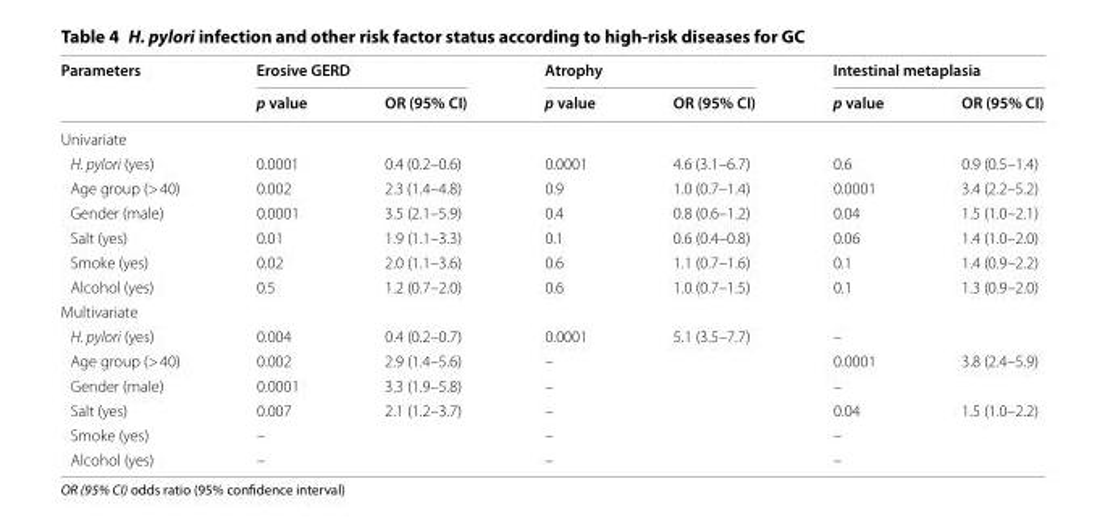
<table><thead><tr><td rowspan="2">Parameters</td><td colspan="2">Erosive GERD</td><td colspan="2">Atrophy</td><td colspan="2">Intestinal metaplasia</td></tr><tr><td>p value</td><td>OR (95% CI)</td><td>p value</td><td>OR (95% CI)</td><td>p value</td><td>OR (95% CI)</td></tr></thead><tbody><tr><td colspan="7">Univariate</td></tr><tr><td>H. pylori (yes)</td><td>0.0001</td><td>0.4 (0.2–0.6)</td><td>0.0001</td><td>4.6 (3.1–6.7)</td><td>0.6</td><td>0.9 (0.5–1.4)</td></tr><tr><td>Age group (&gt; 40)</td><td>0.002</td><td>2.3 (1.4–4.8)</td><td>0.9</td><td>1.0 (0.7–1.4)</td><td>0.0001</td><td>3.4 (2.2–5.2)</td></tr><tr><td>Gender (male)</td><td>0.0001</td><td>3.5 (2.1–5.9)</td><td>0.4</td><td>0.8 (0.6–1.2)</td><td>0.04</td><td>1.5 (1.0–2.1)</td></tr><tr><td>Salt (yes)</td><td>0.01</td><td>1.9 (1.1–3.3)</td><td>0.1</td><td>0.6 (0.4–0.8)</td><td>0.06</td><td>1.4 (1.0–2.0)</td></tr><tr><td>Smoke (yes)</td><td>0.02</td><td>2.0 (1.1–3.6)</td><td>0.6</td><td>1.1 (0.7–1.6)</td><td>0.1</td><td>1.4 (0.9–2.2)</td></tr><tr><td>Alcohol (yes)</td><td>0.5</td><td>1.2 (0.7–2.0)</td><td>0.6</td><td>1.0 (0.7–1.5)</td><td>0.1</td><td>1.3 (0.9–2.0)</td></tr><tr><td colspan="7">Multivariate</td></tr><tr><td>H. pylori (yes)</td><td>0.004</td><td>0.4 (0.2–0.7)</td><td>0.0001</td><td>5.1 (3.5–7.7)</td><td colspan="2">–</td></tr><tr><td>Age group (&gt; 40)</td><td>0.002</td><td>2.9 (1.4–5.6)</td><td colspan="2">–</td><td>0.0001</td><td>3.8 (2.4–5.9)</td></tr><tr><td>Gender (male)</td><td>0.0001</td><td>3.3 (1.9–5.8)</td><td colspan="2">–</td><td colspan="2">–</td></tr><tr><td>Salt (yes)</td><td>0.007</td><td>2.1 (1.2–3.7)</td><td colspan="2">–</td><td>0.04</td><td>1.5 (1.0–2.2)</td></tr><tr><td>Smoke (yes)</td><td colspan="2">–</td><td colspan="2">–</td><td colspan="2">–</td></tr><tr><td>Alcohol (yes)</td><td colspan="2">–</td><td colspan="2">–</td><td colspan="2">–</td></tr></tbody></table>